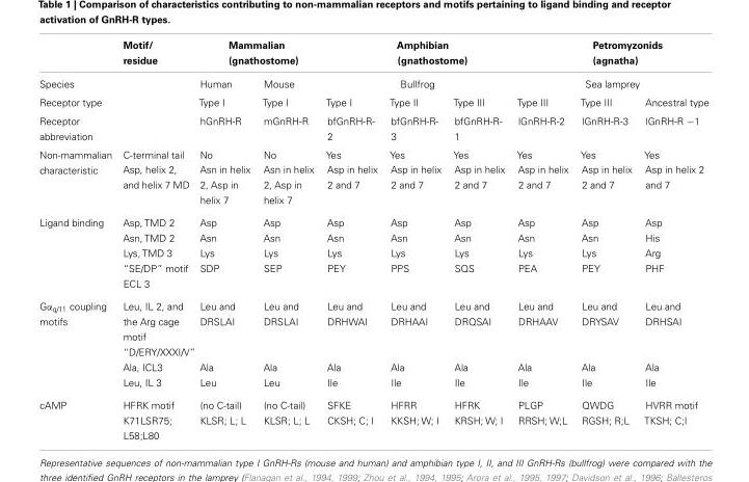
<table><thead><tr><td rowspan="3">Species Receptor type</td><td rowspan="3">Motif/ residue</td><td colspan="2">Mammalian (gnathostome)</td><td rowspan="2" colspan="3">Amphibian (gnathostome) Bullfrog</td><td rowspan="2" colspan="3">Petromyzonids (agnatha) Sea lamprey</td></tr><tr><td rowspan="2">Human Type I</td><td rowspan="2">Mouse Type I</td></tr><tr><td>Type I</td><td>Type II</td><td>Type III</td><td>Type III</td><td>Type III</td><td>Ancestral type</td></tr></thead><tbody><tr><td>Receptor abbreviation</td><td></td><td>hGnRH-R</td><td>mGnRH-R</td><td>bfGnRH-R- 2</td><td>bfGnRH-R- 3</td><td>bfGnRH-R- 1</td><td>lGnRH-R-2</td><td>lGnRH-R-3</td><td>lGnRH-R −1</td></tr><tr><td>Non-mammalian characteristic</td><td>C-terminal tail Asp, helix 2, and helix 7 MD</td><td>No Asn in helix 2, Asp in helix 7</td><td>No Asn in helix 2, Asp in helix 7</td><td>Yes Asp in helix 2 and 7</td><td>Yes Asp in helix 2 and 7</td><td>Yes Asp in helix 2 and 7</td><td>Yes Asp in helix 2 and 7</td><td>Yes Asp in helix 2 and 7</td><td>Yes Asp in helix 2 and 7</td></tr><tr><td rowspan="4">Ligand binding</td><td>Asp, TMD 2</td><td>Asp</td><td>Asp</td><td>Asp</td><td>Asp</td><td>Asp</td><td>Asp</td><td>Asp</td><td>Asp</td></tr><tr><td>Asn, TMD 2</td><td>Asn</td><td>Asn</td><td>Asn</td><td>Asn</td><td>Asn</td><td>Asn</td><td>Asn</td><td>His</td></tr><tr><td>Lys, TMD 3</td><td>Lys</td><td>Lys</td><td>Lys</td><td>Lys</td><td>Lys</td><td>Lys</td><td>Lys</td><td>Arg</td></tr><tr><td>“SE/DP” motif ECL 3</td><td>SDP</td><td>SEP</td><td>PEY</td><td>PPS</td><td>SQS</td><td>PEA</td><td>PEY</td><td>PHF</td></tr><tr><td rowspan="3">Gα<sub>q/11</sub> coupling motifs</td><td>Leu, IL 2, and the Arg cage motif “D/ERY/XXXI/V”</td><td>Leu and DRSLAI</td><td>Leu and DRSLAI</td><td>Leu and DRHWAI</td><td>Leu and DRHAAI</td><td>Leu and DRQSAI</td><td>Leu and DRHAAV</td><td>Leu and DRYSAV</td><td>Leu and DRHSAI</td></tr><tr><td>Ala, ICL3</td><td>Ala</td><td>Ala</td><td>Ala</td><td>Ala</td><td>Ala</td><td>Ala</td><td>Ala</td><td>Ala</td></tr><tr><td>Leu, IL 3</td><td>Leu</td><td>Leu</td><td>Ile</td><td>Ile</td><td>Ile</td><td>Ile</td><td>Ile</td><td>Ile</td></tr><tr><td rowspan="2">cAMP</td><td>HFRK motif</td><td>(no C-tail)</td><td>(no C-tail)</td><td>SFKE</td><td>HFRR</td><td>HFRK</td><td>PLGP</td><td>QWDG</td><td>HVRR motif</td></tr><tr><td>K71LSR75; L58;L80</td><td>KLSR; L; L</td><td>KLSR; L; L</td><td>CKSH; C; I</td><td>KKSH; W; I</td><td>KRSH; W; I</td><td>RRSH; W;L</td><td>RGSH; R;L</td><td>TKSH; C;I</td></tr></tbody></table>